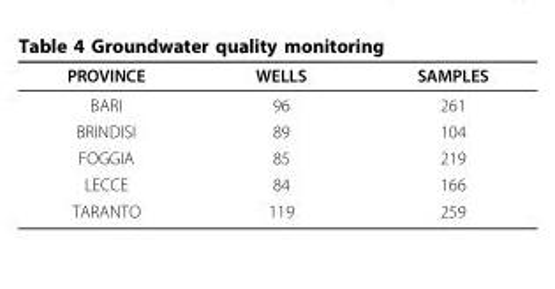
<table><thead><tr><td>PROVINCE</td><td>WELLS</td><td>SAMPLES</td></tr></thead><tbody><tr><td>BARI</td><td>96</td><td>261</td></tr><tr><td>BRINDISI</td><td>89</td><td>104</td></tr><tr><td>FOGGIA</td><td>85</td><td>219</td></tr><tr><td>LECCE</td><td>84</td><td>166</td></tr><tr><td>TARANTO</td><td>119</td><td>259</td></tr></tbody></table>